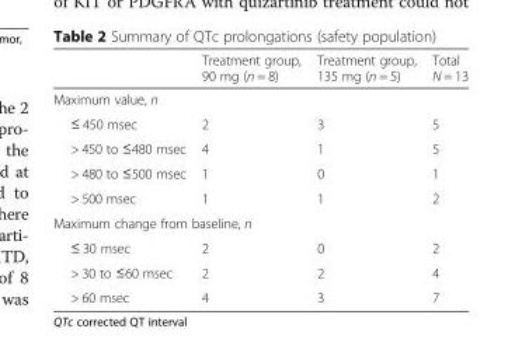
<table><thead><tr><td></td><td>Treatment group, 90 mg (n = 8)</td><td>Treatment group, 135 mg (n = 5)</td><td>Total N = 13</td></tr></thead><tbody><tr><td colspan="4">Maximum value, n</td></tr><tr><td>≤ 450 msec</td><td>2</td><td>3</td><td>5</td></tr><tr><td>&gt; 450 to ≤480 msec</td><td>4</td><td>1</td><td>5</td></tr><tr><td>&gt; 480 to ≤500 msec</td><td>1</td><td>0</td><td>1</td></tr><tr><td>&gt; 500 msec</td><td>1</td><td>1</td><td>2</td></tr><tr><td colspan="4">Maximum change from baseline, n</td></tr><tr><td>≤ 30 msec</td><td>2</td><td>0</td><td>2</td></tr><tr><td>&gt; 30 to ≤60 msec</td><td>2</td><td>2</td><td>4</td></tr><tr><td>&gt; 60 msec</td><td>4</td><td>3</td><td>7</td></tr></tbody></table>